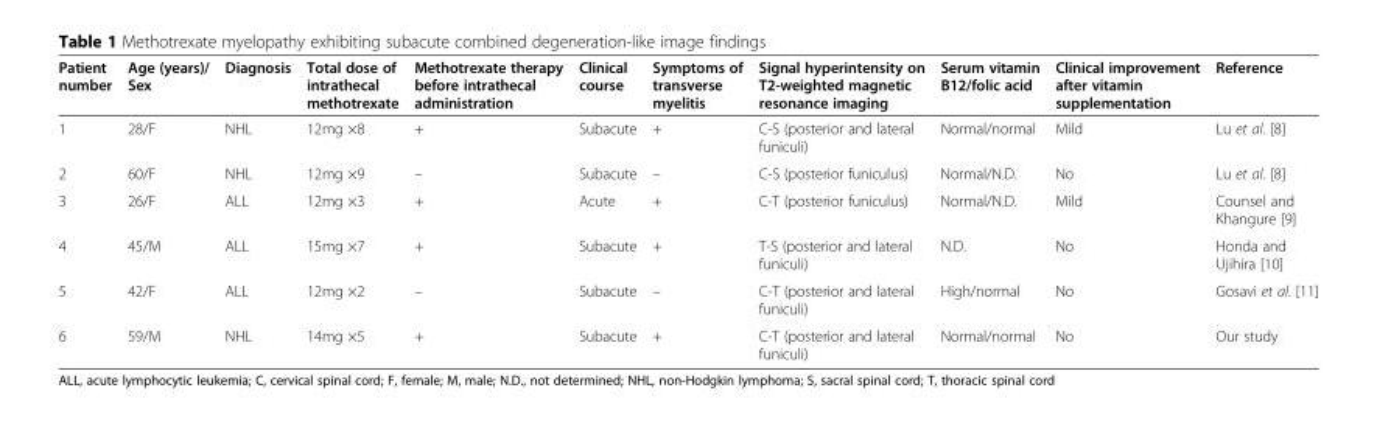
<table><thead><tr><td>Patient number</td><td>Age (years)/ Sex</td><td>Diagnosis</td><td>Total dose of intrathecal methotrexate</td><td>Methotrexate therapy before intrathecal administration</td><td>Clinical course</td><td>Symptoms of transverse myelitis</td><td>Signal hyperintensity on T2-weighted magnetic resonance imaging</td><td>Serum vitamin B12/folic acid</td><td>Clinical improvement after vitamin supplementation</td><td>Reference</td></tr></thead><tbody><tr><td>1</td><td>28/F</td><td>NHL</td><td>12mg ×8</td><td>+</td><td>Subacute</td><td>+</td><td>C-S (posterior and lateral funiculi)</td><td>Normal/normal</td><td>Mild</td><td>Lu et al. [8]</td></tr><tr><td>2</td><td>60/F</td><td>NHL</td><td>12mg ×9</td><td>–</td><td>Subacute</td><td>–</td><td>C-S (posterior funiculus)</td><td>Normal/N.D.</td><td>No</td><td>Lu et al. [8]</td></tr><tr><td>3</td><td>26/F</td><td>ALL</td><td>12mg ×3</td><td>+</td><td>Acute</td><td>+</td><td>C-T (posterior funiculus)</td><td>Normal/N.D.</td><td>Mild</td><td>Counsel and Khangure [9]</td></tr><tr><td>4</td><td>45/M</td><td>ALL</td><td>15mg ×7</td><td>+</td><td>Subacute</td><td>+</td><td>T-S (posterior and lateral funiculi)</td><td>N.D.</td><td>No</td><td>Honda and Ujihira [10]</td></tr><tr><td>5</td><td>42/F</td><td>ALL</td><td>12mg ×2</td><td>–</td><td>Subacute</td><td>–</td><td>C-T (posterior and lateral funiculi)</td><td>High/normal</td><td>No</td><td>Gosavi et al. [11]</td></tr><tr><td>6</td><td>59/M</td><td>NHL</td><td>14mg ×5</td><td>+</td><td>Subacute</td><td>+</td><td>C-T (posterior and lateral funiculi)</td><td>Normal/normal</td><td>No</td><td>Our study</td></tr></tbody></table>